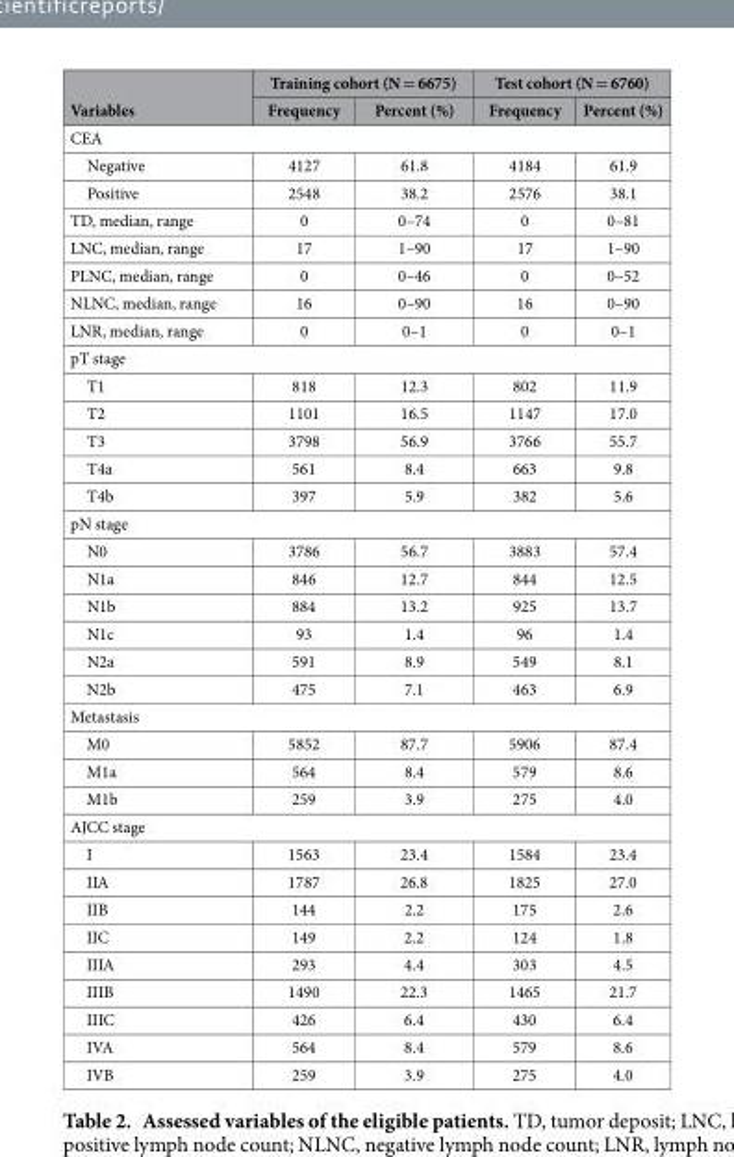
<table><thead><tr><td rowspan="2">Variables</td><td colspan="2">Training cohort (N = 6675)</td><td colspan="2">Test cohort (N = 6760)</td></tr><tr><td>Frequency</td><td>Percent (%)</td><td>Frequency</td><td>Percent (%)</td></tr></thead><tbody><tr><td colspan="5">CEA</td></tr><tr><td>Negative</td><td>4127</td><td>61.8</td><td>4184</td><td>61.9</td></tr><tr><td>Positive</td><td>2548</td><td>38.2</td><td>2576</td><td>38.1</td></tr><tr><td>TD, median, range</td><td>0</td><td>0–74</td><td>0</td><td>0–81</td></tr><tr><td>LNC, median, range</td><td>17</td><td>1–90</td><td>17</td><td>1–90</td></tr><tr><td>PLNC, median, range</td><td>0</td><td>0–46</td><td>0</td><td>0–52</td></tr><tr><td>NLNC, median, range</td><td>16</td><td>0–90</td><td>16</td><td>0–90</td></tr><tr><td>LNR, median, range</td><td>0</td><td>0–1</td><td>0</td><td>0–1</td></tr><tr><td colspan="5">pT stage</td></tr><tr><td>T1</td><td>818</td><td>12.3</td><td>802</td><td>11.9</td></tr><tr><td>T2</td><td>1101</td><td>16.5</td><td>1147</td><td>17.0</td></tr><tr><td>T3</td><td>3798</td><td>56.9</td><td>3766</td><td>55.7</td></tr><tr><td>T4a</td><td>561</td><td>8.4</td><td>663</td><td>9.8</td></tr><tr><td>T4b</td><td>397</td><td>5.9</td><td>382</td><td>5.6</td></tr><tr><td colspan="5">pN stage</td></tr><tr><td>N0</td><td>3786</td><td>56.7</td><td>3883</td><td>57.4</td></tr><tr><td>N1a</td><td>846</td><td>12.7</td><td>844</td><td>12.5</td></tr><tr><td>N1b</td><td>884</td><td>13.2</td><td>925</td><td>13.7</td></tr><tr><td>N1c</td><td>93</td><td>1.4</td><td>96</td><td>1.4</td></tr><tr><td>N2a</td><td>591</td><td>8.9</td><td>549</td><td>8.1</td></tr><tr><td>N2b</td><td>475</td><td>7.1</td><td>463</td><td>6.9</td></tr><tr><td colspan="5">Metastasis</td></tr><tr><td>M0</td><td>5852</td><td>87.7</td><td>5906</td><td>87.4</td></tr><tr><td>M1a</td><td>564</td><td>8.4</td><td>579</td><td>8.6</td></tr><tr><td>M1b</td><td>259</td><td>3.9</td><td>275</td><td>4.0</td></tr><tr><td colspan="5">AJCC stage</td></tr><tr><td>I</td><td>1563</td><td>23.4</td><td>1584</td><td>23.4</td></tr><tr><td>IIA</td><td>1787</td><td>26.8</td><td>1825</td><td>27.0</td></tr><tr><td>IIB</td><td>144</td><td>2.2</td><td>175</td><td>2.6</td></tr><tr><td>IIC</td><td>149</td><td>2.2</td><td>124</td><td>1.8</td></tr><tr><td>IIIA</td><td>293</td><td>4.4</td><td>303</td><td>4.5</td></tr><tr><td>IIIB</td><td>1490</td><td>22.3</td><td>1465</td><td>21.7</td></tr><tr><td>IIIC</td><td>426</td><td>6.4</td><td>430</td><td>6.4</td></tr><tr><td>IVA</td><td>564</td><td>8.4</td><td>579</td><td>8.6</td></tr><tr><td>IVB</td><td>259</td><td>3.9</td><td>275</td><td>4.0</td></tr></tbody></table>